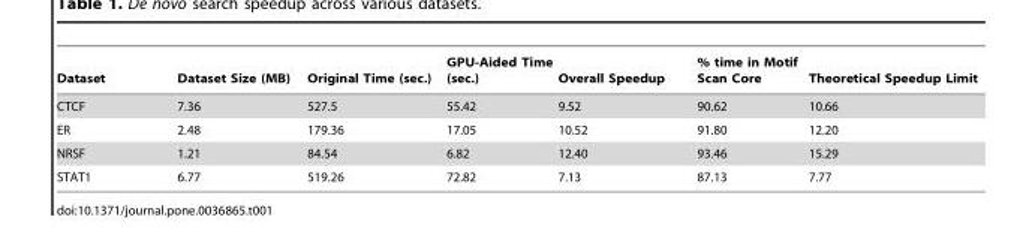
<table><thead><tr><td>Dataset</td><td>Dataset Size (MB)</td><td>Original Time (sec.)</td><td>GPU-Aided Time (sec.)</td><td>Overall Speedup</td><td>% time in Motif Scan Core</td><td>Theoretical Speedup Limit</td></tr></thead><tbody><tr><td>CTCF</td><td>7.36</td><td>527.5</td><td>55.42</td><td>9.52</td><td>90.62</td><td>10.66</td></tr><tr><td>ER</td><td>2.48</td><td>179.36</td><td>17.05</td><td>10.52</td><td>91.80</td><td>12.20</td></tr><tr><td>NRSF</td><td>1.21</td><td>84.54</td><td>6.82</td><td>12.40</td><td>93.46</td><td>15.29</td></tr><tr><td>STAT1</td><td>6.77</td><td>519.26</td><td>72.82</td><td>7.13</td><td>87.13</td><td>7.77</td></tr></tbody></table>